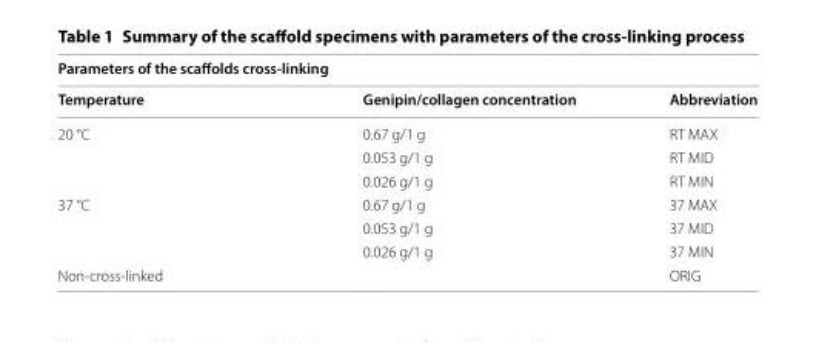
<table><thead><tr><td colspan="3">Parameters of the scaffolds cross‑linking</td></tr><tr><td>Temperature</td><td>Genipin/collagen concentration</td><td>Abbreviation</td></tr></thead><tbody><tr><td rowspan="3">20 °C</td><td>0.67 g/1 g</td><td>RT MAX</td></tr><tr><td>0.053 g/1 g</td><td>RT MID</td></tr><tr><td>0.026 g/1 g</td><td>RT MIN</td></tr><tr><td rowspan="3">37 °C</td><td>0.67 g/1 g</td><td>37 MAX</td></tr><tr><td>0.053 g/1 g</td><td>37 MID</td></tr><tr><td>0.026 g/1 g</td><td>37 MIN</td></tr><tr><td colspan="2">Non-cross-linked</td><td>ORIG</td></tr></tbody></table>